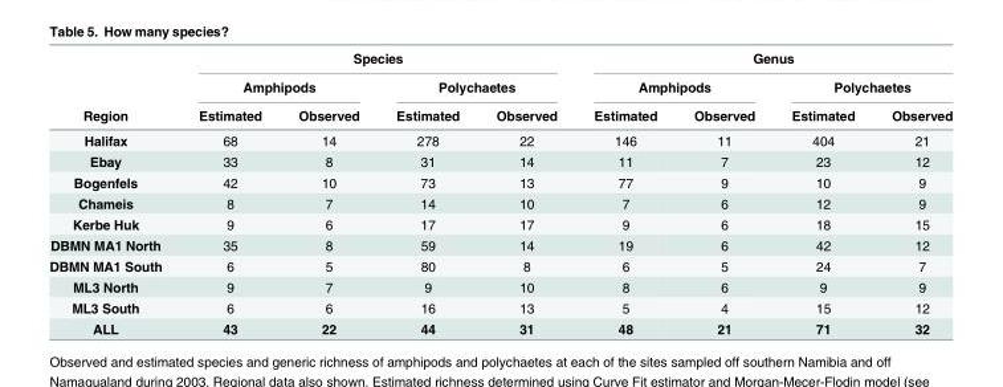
<table><thead><tr><td rowspan="3">Region</td><td colspan="4">Species</td><td colspan="4">Genus</td></tr><tr><td colspan="2">Amphipods</td><td colspan="2">Polychaetes</td><td colspan="2">Amphipods</td><td colspan="2">Polychaetes</td></tr><tr><td>Estimated</td><td>Observed</td><td>Estimated</td><td>Observed</td><td>Estimated</td><td>Observed</td><td>Estimated</td><td>Observed</td></tr></thead><tbody><tr><td>Halifax</td><td>68</td><td>14</td><td>278</td><td>22</td><td>146</td><td>11</td><td>404</td><td>21</td></tr><tr><td>Ebay</td><td>33</td><td>8</td><td>31</td><td>14</td><td>11</td><td>7</td><td>23</td><td>12</td></tr><tr><td>Bogenfels</td><td>42</td><td>10</td><td>73</td><td>13</td><td>77</td><td>9</td><td>10</td><td>9</td></tr><tr><td>Chameis</td><td>8</td><td>7</td><td>14</td><td>10</td><td>7</td><td>6</td><td>12</td><td>9</td></tr><tr><td>Kerbe Huk</td><td>9</td><td>6</td><td>17</td><td>17</td><td>9</td><td>6</td><td>18</td><td>15</td></tr><tr><td>DBMN MA1 North</td><td>35</td><td>8</td><td>59</td><td>14</td><td>19</td><td>6</td><td>42</td><td>12</td></tr><tr><td>DBMN MA1 South</td><td>6</td><td>5</td><td>80</td><td>8</td><td>6</td><td>5</td><td>24</td><td>7</td></tr><tr><td>ML3 North</td><td>9</td><td>7</td><td>9</td><td>10</td><td>8</td><td>6</td><td>9</td><td>9</td></tr><tr><td>ML3 South</td><td>6</td><td>6</td><td>16</td><td>13</td><td>5</td><td>4</td><td>15</td><td>12</td></tr><tr><td>ALL</td><td>43</td><td>22</td><td>44</td><td>31</td><td>48</td><td>21</td><td>71</td><td>32</td></tr></tbody></table>